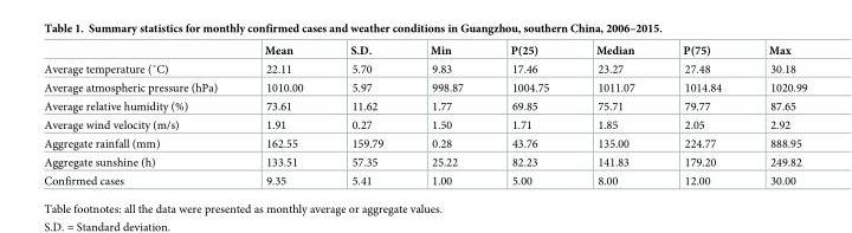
<table><thead><tr><td></td><td>Mean</td><td>S.D.</td><td>Min</td><td>P(25)</td><td>Median</td><td>P(75)</td><td>Max</td></tr></thead><tbody><tr><td>Average temperature (˚C)</td><td>22.11</td><td>5.70</td><td>9.83</td><td>17.46</td><td>23.27</td><td>27.48</td><td>30.18</td></tr><tr><td>Average atmospheric pressure (hPa)</td><td>1010.00</td><td>5.97</td><td>998.87</td><td>1004.75</td><td>1011.07</td><td>1014.84</td><td>1020.99</td></tr><tr><td>Average relative humidity (%)</td><td>73.61</td><td>11.62</td><td>1.77</td><td>69.85</td><td>75.71</td><td>79.77</td><td>87.65</td></tr><tr><td>Average wind velocity (m/s)</td><td>1.91</td><td>0.27</td><td>1.50</td><td>1.71</td><td>1.85</td><td>2.05</td><td>2.92</td></tr><tr><td>Aggregate rainfall (mm)</td><td>162.55</td><td>159.79</td><td>0.28</td><td>43.76</td><td>135.00</td><td>224.77</td><td>888.95</td></tr><tr><td>Aggregate sunshine (h)</td><td>133.51</td><td>57.35</td><td>25.22</td><td>82.23</td><td>141.83</td><td>179.20</td><td>249.82</td></tr><tr><td>Confirmed cases</td><td>9.35</td><td>5.41</td><td>1.00</td><td>5.00</td><td>8.00</td><td>12.00</td><td>30.00</td></tr></tbody></table>